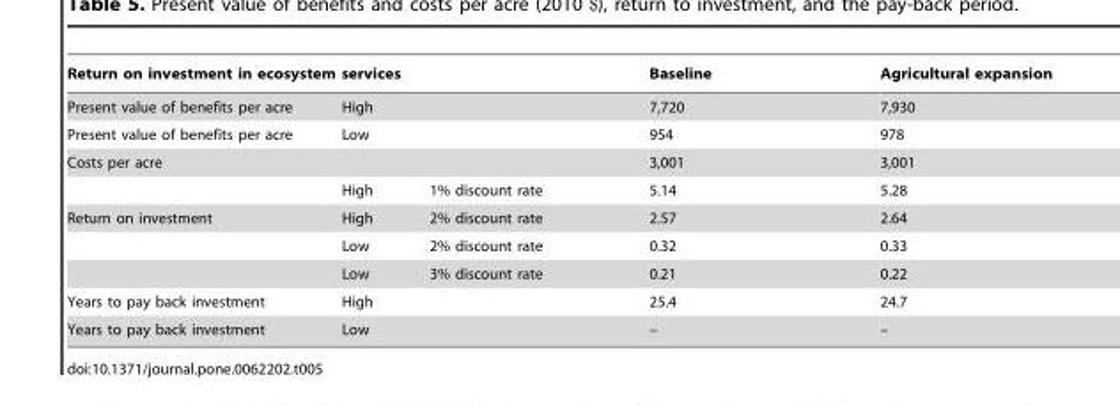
<table><thead><tr><td colspan="3">Return on investment in ecosystem services</td><td>Baseline</td><td>Agricultural expansion</td></tr></thead><tbody><tr><td>Present value of benefits per acre</td><td colspan="2">High</td><td>7,720</td><td>7,930</td></tr><tr><td>Present value of benefits per acre</td><td colspan="2">Low</td><td>954</td><td>978</td></tr><tr><td rowspan="2">Costs per acre</td><td colspan="2"></td><td>3,001</td><td>3,001</td></tr><tr><td>High</td><td>1% discount rate</td><td>5.14</td><td>5.28</td></tr><tr><td rowspan="3">Return on investment</td><td>High</td><td>2% discount rate</td><td>2.57</td><td>2.64</td></tr><tr><td>Low</td><td>2% discount rate</td><td>0.32</td><td>0.33</td></tr><tr><td>Low</td><td>3% discount rate</td><td>0.21</td><td>0.22</td></tr><tr><td>Years to pay back investment</td><td colspan="2">High</td><td>25.4</td><td>24.7</td></tr><tr><td>Years to pay back investment</td><td colspan="2">Low</td><td>–</td><td>–</td></tr></tbody></table>